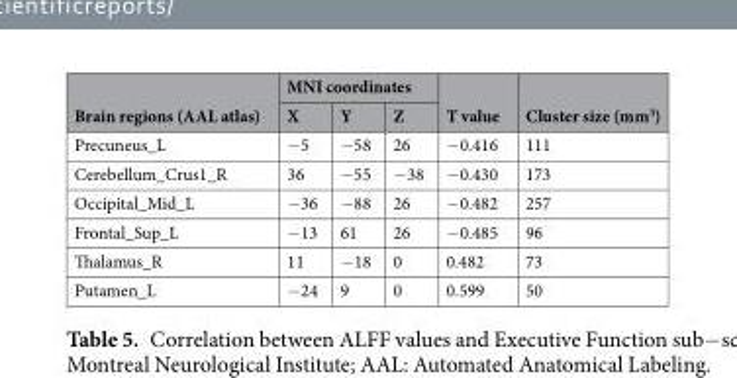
<table><thead><tr><td rowspan="2">Brain regions (AAL atlas)</td><td colspan="3">MNI coordinates</td><td rowspan="2">T value</td><td rowspan="2">Cluster size (mm<sup>3</sup>)</td></tr><tr><td>X</td><td>Y</td><td>Z</td></tr></thead><tbody><tr><td>Precuneus_L</td><td>−5</td><td>−58</td><td>26</td><td>−0.416</td><td>111</td></tr><tr><td>Cerebellum_Crus1_R</td><td>36</td><td>−55</td><td>−38</td><td>−0.430</td><td>173</td></tr><tr><td>Occipital_Mid_L</td><td>−36</td><td>−88</td><td>26</td><td>−0.482</td><td>257</td></tr><tr><td>Frontal_Sup_L</td><td>−13</td><td>61</td><td>26</td><td>−0.485</td><td>96</td></tr><tr><td>Thalamus_R</td><td>11</td><td>−18</td><td>0</td><td>0.482</td><td>73</td></tr><tr><td>Putamen_L</td><td>−24</td><td>9</td><td>0</td><td>0.599</td><td>50</td></tr></tbody></table>